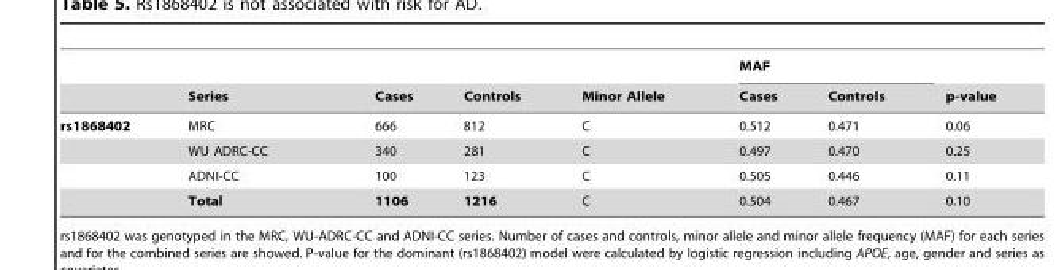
<table><thead><tr><td rowspan="2"></td><td rowspan="2">Series</td><td rowspan="2">Cases</td><td rowspan="2">Controls</td><td rowspan="2">Minor Allele</td><td colspan="2">MAF</td><td rowspan="2">p-value</td></tr><tr><td>Cases</td><td>Controls</td></tr></thead><tbody><tr><td rowspan="4">rs1868402</td><td>MRC</td><td>666</td><td>812</td><td>C</td><td>0.512</td><td>0.471</td><td>0.06</td></tr><tr><td>WU ADRC-CC</td><td>340</td><td>281</td><td>C</td><td>0.497</td><td>0.470</td><td>0.25</td></tr><tr><td>ADNI-CC</td><td>100</td><td>123</td><td>C</td><td>0.505</td><td>0.446</td><td>0.11</td></tr><tr><td>Total</td><td>1106</td><td>1216</td><td>C</td><td>0.504</td><td>0.467</td><td>0.10</td></tr></tbody></table>